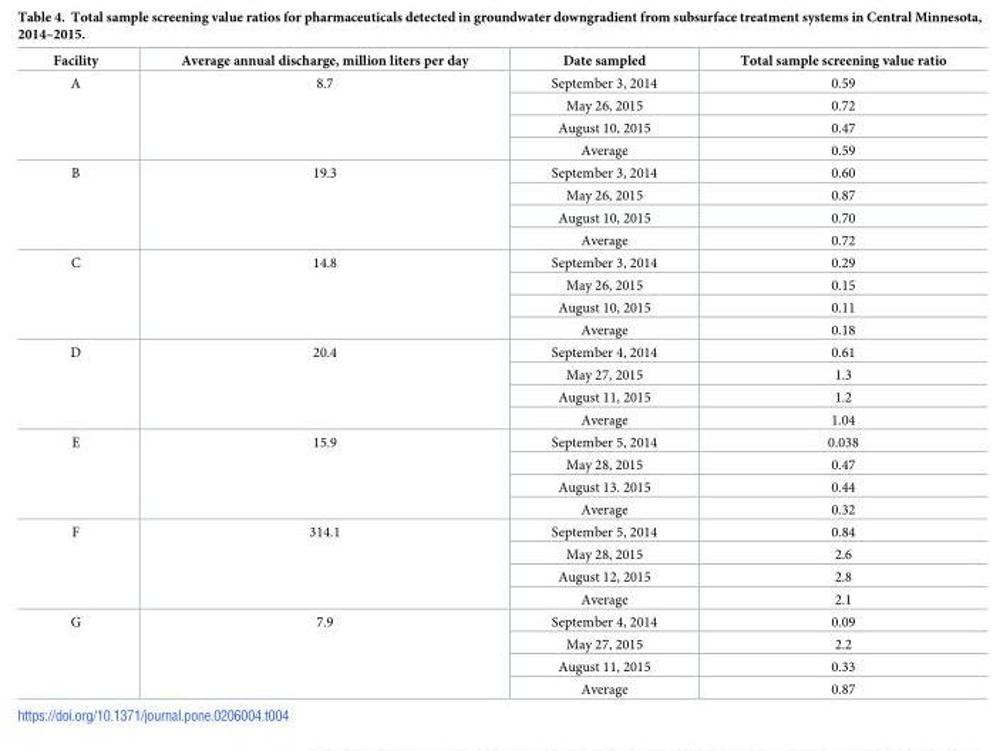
<table><thead><tr><td>Facility</td><td>Average annual discharge, million liters per day</td><td>Date sampled</td><td>Total sample screening value ratio</td></tr></thead><tbody><tr><td rowspan="4">A</td><td rowspan="4">8.7</td><td>September 3, 2014</td><td>0.59</td></tr><tr><td>May 26, 2015</td><td>0.72</td></tr><tr><td>August 10, 2015</td><td>0.47</td></tr><tr><td>Average</td><td>0.59</td></tr><tr><td rowspan="4">B</td><td rowspan="4">19.3</td><td>September 3, 2014</td><td>0.60</td></tr><tr><td>May 26, 2015</td><td>0.87</td></tr><tr><td>August 10, 2015</td><td>0.70</td></tr><tr><td>Average</td><td>0.72</td></tr><tr><td rowspan="4">C</td><td rowspan="4">14.8</td><td>September 3, 2014</td><td>0.29</td></tr><tr><td>May 26, 2015</td><td>0.15</td></tr><tr><td>August 10, 2015</td><td>0.11</td></tr><tr><td>Average</td><td>0.18</td></tr><tr><td rowspan="4">D</td><td rowspan="4">20.4</td><td>September 4, 2014</td><td>0.61</td></tr><tr><td>May 27, 2015</td><td>1.3</td></tr><tr><td>August 11, 2015</td><td>1.2</td></tr><tr><td>Average</td><td>1.04</td></tr><tr><td rowspan="4">E</td><td rowspan="4">15.9</td><td>September 5, 2014</td><td>0.038</td></tr><tr><td>May 28, 2015</td><td>0.47</td></tr><tr><td>August 13. 2015</td><td>0.44</td></tr><tr><td>Average</td><td>0.32</td></tr><tr><td rowspan="4">F</td><td rowspan="4">314.1</td><td>September 5, 2014</td><td>0.84</td></tr><tr><td>May 28, 2015</td><td>2.6</td></tr><tr><td>August 12, 2015</td><td>2.8</td></tr><tr><td>Average</td><td>2.1</td></tr><tr><td rowspan="4">G</td><td rowspan="4">7.9</td><td>September 4, 2014</td><td>0.09</td></tr><tr><td>May 27, 2015</td><td>2.2</td></tr><tr><td>August 11, 2015</td><td>0.33</td></tr><tr><td>Average</td><td>0.87</td></tr></tbody></table>